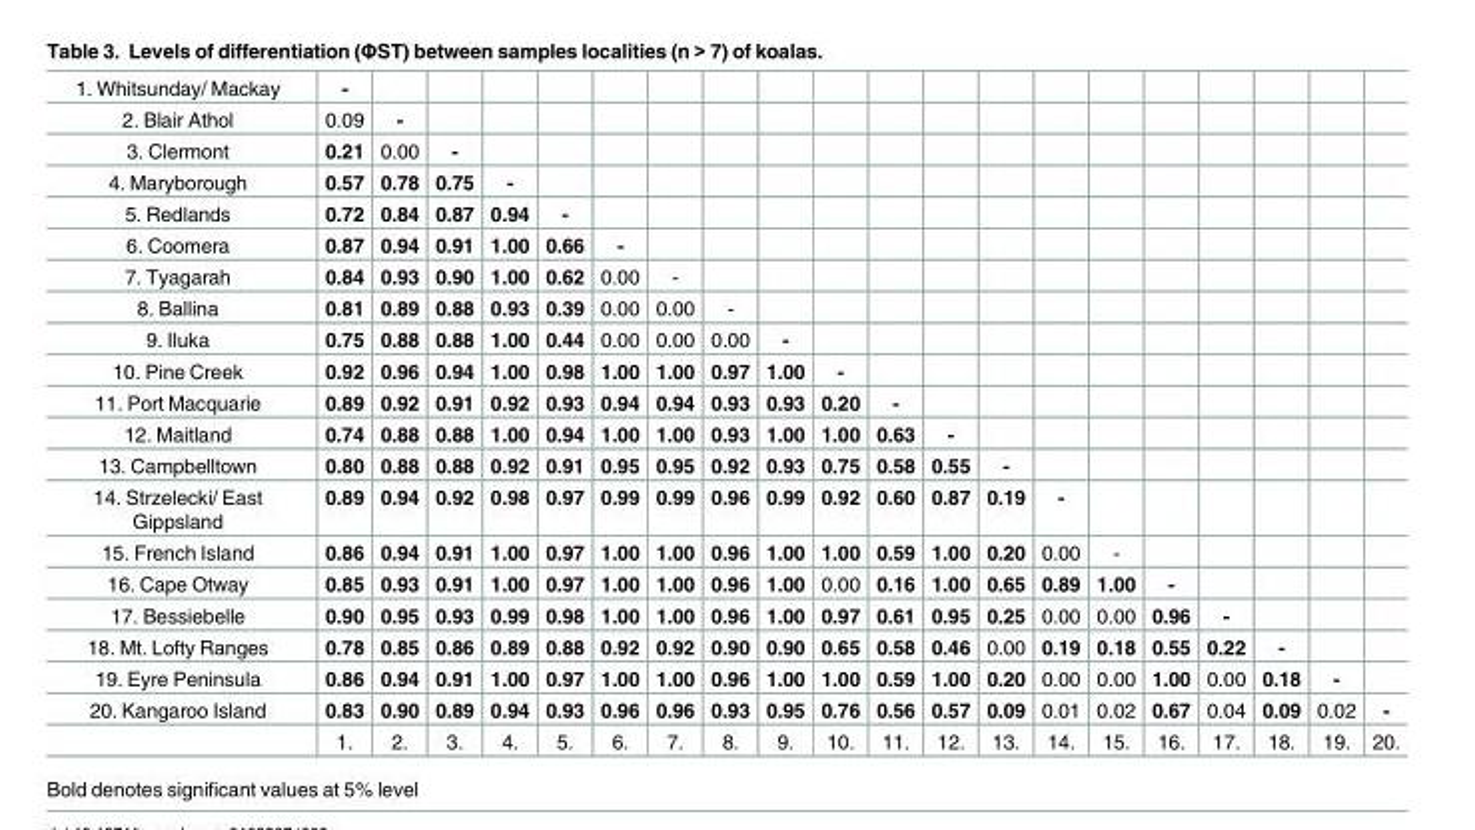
<table><tbody><tr><td>1. Whitsunday/ Mackay</td><td>-</td><td></td><td></td><td></td><td></td><td></td><td></td><td></td><td></td><td></td><td></td><td></td><td></td><td></td><td></td><td></td><td></td><td></td><td></td><td></td></tr><tr><td>2. Blair Athol</td><td>0.09</td><td>-</td><td></td><td></td><td></td><td></td><td></td><td></td><td></td><td></td><td></td><td></td><td></td><td></td><td></td><td></td><td></td><td></td><td></td><td></td></tr><tr><td>3. Clermont</td><td>0.21</td><td>0.00</td><td>-</td><td></td><td></td><td></td><td></td><td></td><td></td><td></td><td></td><td></td><td></td><td></td><td></td><td></td><td></td><td></td><td></td><td></td></tr><tr><td>4. Maryborough</td><td>0.57</td><td>0.78</td><td>0.75</td><td>-</td><td></td><td></td><td></td><td></td><td></td><td></td><td></td><td></td><td></td><td></td><td></td><td></td><td></td><td></td><td></td><td></td></tr><tr><td>5. Redlands</td><td>0.72</td><td>0.84</td><td>0.87</td><td>0.94</td><td>-</td><td></td><td></td><td></td><td></td><td></td><td></td><td></td><td></td><td></td><td></td><td></td><td></td><td></td><td></td><td></td></tr><tr><td>6. Coomera</td><td>0.87</td><td>0.94</td><td>0.91</td><td>1.00</td><td>0.66</td><td>-</td><td></td><td></td><td></td><td></td><td></td><td></td><td></td><td></td><td></td><td></td><td></td><td></td><td></td><td></td></tr><tr><td>7. Tyagarah</td><td>0.84</td><td>0.93</td><td>0.90</td><td>1.00</td><td>0.62</td><td>0.00</td><td>-</td><td></td><td></td><td></td><td></td><td></td><td></td><td></td><td></td><td></td><td></td><td></td><td></td><td></td></tr><tr><td>8. Ballina</td><td>0.81</td><td>0.89</td><td>0.88</td><td>0.93</td><td>0.39</td><td>0.00</td><td>0.00</td><td>-</td><td></td><td></td><td></td><td></td><td></td><td></td><td></td><td></td><td></td><td></td><td></td><td></td></tr><tr><td>9. Iluka</td><td>0.75</td><td>0.88</td><td>0.88</td><td>1.00</td><td>0.44</td><td>0.00</td><td>0.00</td><td>0.00</td><td>-</td><td></td><td></td><td></td><td></td><td></td><td></td><td></td><td></td><td></td><td></td><td></td></tr><tr><td>10. Pine Creek</td><td>0.92</td><td>0.96</td><td>0.94</td><td>1.00</td><td>0.98</td><td>1.00</td><td>1.00</td><td>0.97</td><td>1.00</td><td>-</td><td></td><td></td><td></td><td></td><td></td><td></td><td></td><td></td><td></td><td></td></tr><tr><td>11. Port Macquarie</td><td>0.89</td><td>0.92</td><td>0.91</td><td>0.92</td><td>0.93</td><td>0.94</td><td>0.94</td><td>0.93</td><td>0.93</td><td>0.20</td><td>-</td><td></td><td></td><td></td><td></td><td></td><td></td><td></td><td></td><td></td></tr><tr><td>12. Maitland</td><td>0.74</td><td>0.88</td><td>0.88</td><td>1.00</td><td>0.94</td><td>1.00</td><td>1.00</td><td>0.93</td><td>1.00</td><td>1.00</td><td>0.63</td><td>-</td><td></td><td></td><td></td><td></td><td></td><td></td><td></td><td></td></tr><tr><td>13. Campbelltown</td><td>0.80</td><td>0.88</td><td>0.88</td><td>0.92</td><td>0.91</td><td>0.95</td><td>0.95</td><td>0.92</td><td>0.93</td><td>0.75</td><td>0.58</td><td>0.55</td><td>-</td><td></td><td></td><td></td><td></td><td></td><td></td><td></td></tr><tr><td>14. Strzelecki/ East Gippsland</td><td>0.89</td><td>0.94</td><td>0.92</td><td>0.98</td><td>0.97</td><td>0.99</td><td>0.99</td><td>0.96</td><td>0.99</td><td>0.92</td><td>0.60</td><td>0.87</td><td>0.19</td><td>-</td><td></td><td></td><td></td><td></td><td></td><td></td></tr><tr><td>15. French Island</td><td>0.86</td><td>0.94</td><td>0.91</td><td>1.00</td><td>0.97</td><td>1.00</td><td>1.00</td><td>0.96</td><td>1.00</td><td>1.00</td><td>0.59</td><td>1.00</td><td>0.20</td><td>0.00</td><td>-</td><td></td><td></td><td></td><td></td><td></td></tr><tr><td>16. Cape Otway</td><td>0.85</td><td>0.93</td><td>0.91</td><td>1.00</td><td>0.97</td><td>1.00</td><td>1.00</td><td>0.96</td><td>1.00</td><td>0.00</td><td>0.16</td><td>1.00</td><td>0.65</td><td>0.89</td><td>1.00</td><td>-</td><td></td><td></td><td></td><td></td></tr><tr><td>17. Bessiebelle</td><td>0.90</td><td>0.95</td><td>0.93</td><td>0.99</td><td>0.98</td><td>1.00</td><td>1.00</td><td>0.96</td><td>1.00</td><td>0.97</td><td>0.61</td><td>0.95</td><td>0.25</td><td>0.00</td><td>0.00</td><td>0.96</td><td>-</td><td></td><td></td><td></td></tr><tr><td>18. Mt. Lofty Ranges</td><td>0.78</td><td>0.85</td><td>0.86</td><td>0.89</td><td>0.88</td><td>0.92</td><td>0.92</td><td>0.90</td><td>0.90</td><td>0.65</td><td>0.58</td><td>0.46</td><td>0.00</td><td>0.19</td><td>0.18</td><td>0.55</td><td>0.22</td><td>-</td><td></td><td></td></tr><tr><td>19. Eyre Peninsula</td><td>0.86</td><td>0.94</td><td>0.91</td><td>1.00</td><td>0.97</td><td>1.00</td><td>1.00</td><td>0.96</td><td>1.00</td><td>1.00</td><td>0.59</td><td>1.00</td><td>0.20</td><td>0.00</td><td>0.00</td><td>1.00</td><td>0.00</td><td>0.18</td><td>-</td><td></td></tr><tr><td rowspan="2">20. Kangaroo Island</td><td>0.83</td><td>0.90</td><td>0.89</td><td>0.94</td><td>0.93</td><td>0.96</td><td>0.96</td><td>0.93</td><td>0.95</td><td>0.76</td><td>0.56</td><td>0.57</td><td>0.09</td><td>0.01</td><td>0.02</td><td>0.67</td><td>0.04</td><td>0.09</td><td>0.02</td><td>-</td></tr><tr><td>1.</td><td>2.</td><td>3.</td><td>4.</td><td>5.</td><td>6.</td><td>7.</td><td>8.</td><td>9.</td><td>10.</td><td>11.</td><td>12.</td><td>13.</td><td>14.</td><td>15.</td><td>16.</td><td>17.</td><td>18.</td><td>19.</td><td>20.</td></tr></tbody></table>